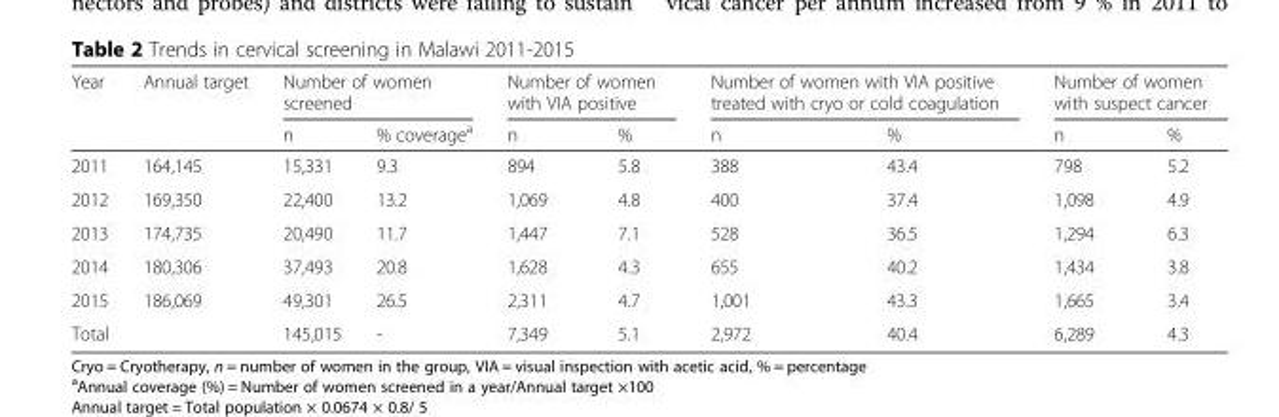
<table><thead><tr><td rowspan="2">Year</td><td rowspan="2">Annual target</td><td colspan="2">Number of women screened</td><td colspan="2">Number of women with VIA positive</td><td colspan="2">Number of women with VIA positive treated with cryo or cold coagulation</td><td colspan="2">Number of women with suspect cancer</td></tr><tr><td>n</td><td>% coverage<sup>a</sup></td><td>n</td><td>%</td><td>n</td><td>%</td><td>n</td><td>%</td></tr></thead><tbody><tr><td>2011</td><td>164,145</td><td>15,331</td><td>9.3</td><td>894</td><td>5.8</td><td>388</td><td>43.4</td><td>798</td><td>5.2</td></tr><tr><td>2012</td><td>169,350</td><td>22,400</td><td>13.2</td><td>1,069</td><td>4.8</td><td>400</td><td>37.4</td><td>1,098</td><td>4.9</td></tr><tr><td>2013</td><td>174,735</td><td>20,490</td><td>11.7</td><td>1,447</td><td>7.1</td><td>528</td><td>36.5</td><td>1,294</td><td>6.3</td></tr><tr><td>2014</td><td>180,306</td><td>37,493</td><td>20.8</td><td>1,628</td><td>4.3</td><td>655</td><td>40.2</td><td>1,434</td><td>3.8</td></tr><tr><td>2015</td><td>186,069</td><td>49,301</td><td>26.5</td><td>2,311</td><td>4.7</td><td>1,001</td><td>43.3</td><td>1,665</td><td>3.4</td></tr><tr><td>Total</td><td></td><td>145,015</td><td>-</td><td>7,349</td><td>5.1</td><td>2,972</td><td>40.4</td><td>6,289</td><td>4.3</td></tr></tbody></table>